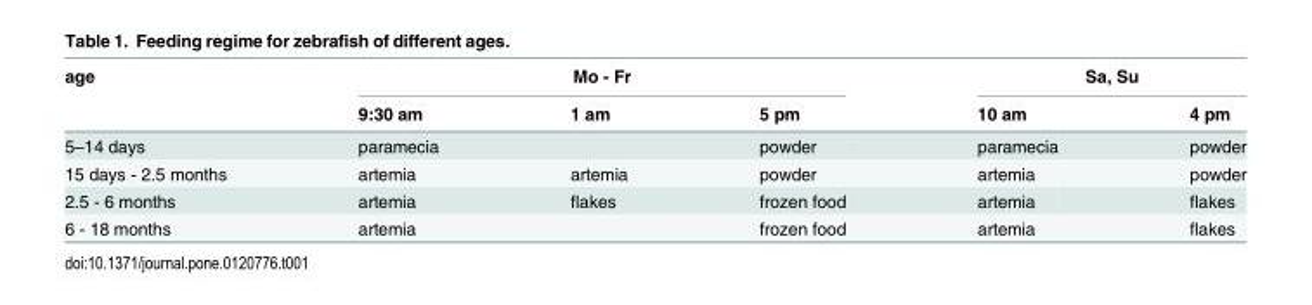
<table><thead><tr><td rowspan="2">age</td><td colspan="3">Mo - Fr</td><td colspan="2">Sa, Su</td></tr><tr><td>9:30 am</td><td>1 am</td><td>5 pm</td><td>10 am</td><td>4 pm</td></tr></thead><tbody><tr><td>5–14 days</td><td>paramecia</td><td></td><td>powder</td><td>paramecia</td><td>powder</td></tr><tr><td>15 days - 2.5 months</td><td>artemia</td><td>artemia</td><td>powder</td><td>artemia</td><td>powder</td></tr><tr><td>2.5 - 6 months</td><td>artemia</td><td>flakes</td><td>frozen food</td><td>artemia</td><td>flakes</td></tr><tr><td>6 - 18 months</td><td>artemia</td><td></td><td>frozen food</td><td>artemia</td><td>flakes</td></tr></tbody></table>